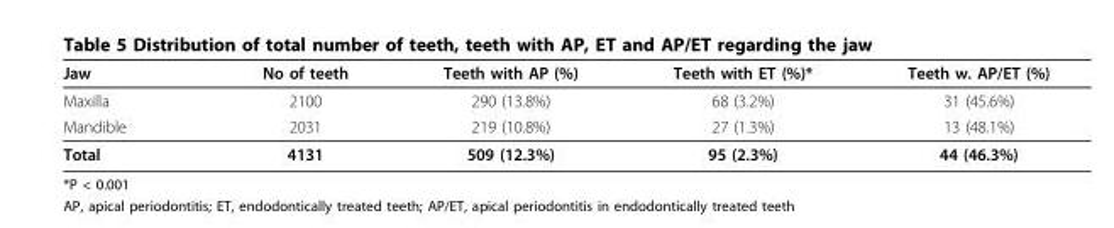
<table><thead><tr><td>Jaw</td><td>No of teeth</td><td>Teeth with AP (%)</td><td>Teeth with ET (%)*</td><td>Teeth w. AP/ET (%)</td></tr></thead><tbody><tr><td>Maxilla</td><td>2100</td><td>290 (13.8%)</td><td>68 (3.2%)</td><td>31 (45.6%)</td></tr><tr><td>Mandible</td><td>2031</td><td>219 (10.8%)</td><td>27 (1.3%)</td><td>13 (48.1%)</td></tr><tr><td>Total</td><td>4131</td><td>509 (12.3%)</td><td>95 (2.3%)</td><td>44 (46.3%)</td></tr></tbody></table>